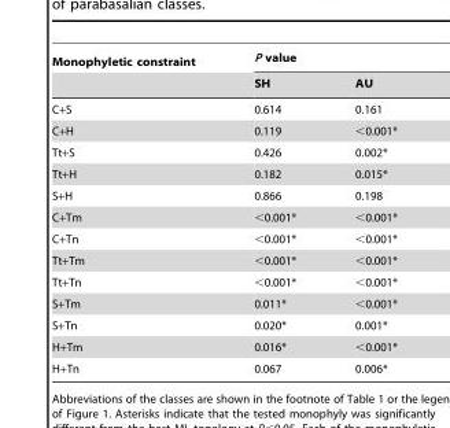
<table><thead><tr><td rowspan="2">Monophyletic constraint</td><td colspan="2">P value</td></tr><tr><td>SH</td><td>AU</td></tr></thead><tbody><tr><td>C+S</td><td>0.614</td><td>0.161</td></tr><tr><td>C+H</td><td>0.119</td><td>&lt;0.001*</td></tr><tr><td>Tt+S</td><td>0.426</td><td>0.002*</td></tr><tr><td>Tt+H</td><td>0.182</td><td>0.015*</td></tr><tr><td>S+H</td><td>0.866</td><td>0.198</td></tr><tr><td>C+Tm</td><td>&lt;0.001*</td><td>&lt;0.001*</td></tr><tr><td>C+Tn</td><td>&lt;0.001*</td><td>&lt;0.001*</td></tr><tr><td>Tt+Tm</td><td>&lt;0.001*</td><td>&lt;0.001*</td></tr><tr><td>Tt+Tn</td><td>&lt;0.001*</td><td>&lt;0.001*</td></tr><tr><td>S+Tm</td><td>0.011*</td><td>&lt;0.001*</td></tr><tr><td>S+Tn</td><td>0.020*</td><td>0.001*</td></tr><tr><td>H+Tm</td><td>0.016*</td><td>&lt;0.001*</td></tr><tr><td>H+Tn</td><td>0.067</td><td>0.006*</td></tr></tbody></table>